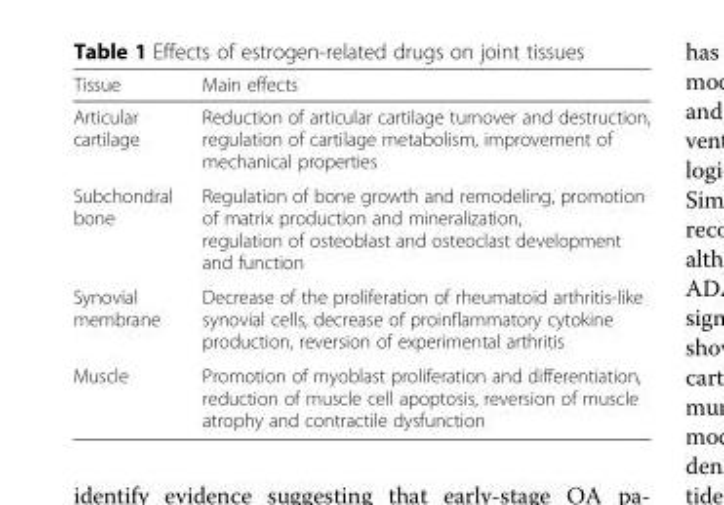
<table><thead><tr><td>Tissue</td><td>Main effects</td></tr></thead><tbody><tr><td>Articular cartilage</td><td>Reduction of articular cartilage turnover and destruction, regulation of cartilage metabolism, improvement of mechanical properties</td></tr><tr><td>Subchondral bone</td><td>Regulation of bone growth and remodeling, promotion of matrix production and mineralization, regulation of osteoblast and osteoclast development and function</td></tr><tr><td>Synovial membrane</td><td>Decrease of the proliferation of rheumatoid arthritis-like synovial cells, decrease of proinflammatory cytokine production, reversion of experimental arthritis</td></tr><tr><td>Muscle</td><td>Promotion of myoblast proliferation and differentiation, reduction of muscle cell apoptosis, reversion of muscle atrophy and contractile dysfunction</td></tr></tbody></table>